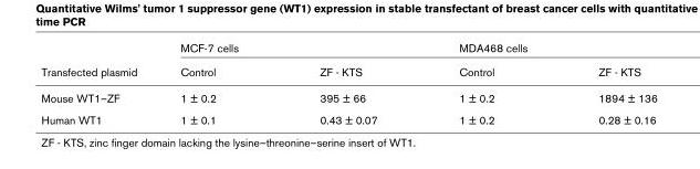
<table><thead><tr><td rowspan="2">Transfected plasmid</td><td colspan="2">MCF-7 cells</td><td colspan="2">MDA468 cells</td></tr><tr><td>Control</td><td>ZF - KTS</td><td>Control</td><td>ZF - KTS</td></tr></thead><tbody><tr><td>Mouse WT1–ZF</td><td>1 ± 0.2</td><td>395 ± 66</td><td>1 ± 0.2</td><td>1894 ± 136</td></tr><tr><td>Human WT1</td><td>1 ± 0.1</td><td>0.43 ± 0.07</td><td>1 ± 0.2</td><td>0.28 ± 0.16</td></tr></tbody></table>